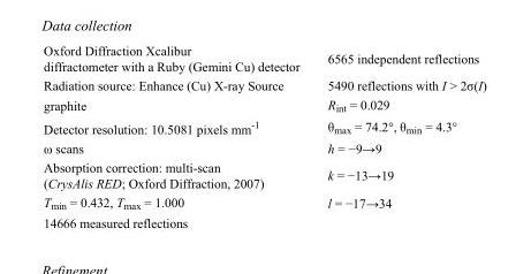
<table><tbody><tr><td>Oxford Diffraction Xcalibur diffractometer with a Ruby (Gemini Cu) detector</td><td>6565 independent reflections</td></tr><tr><td>Radiation source: Enhance (Cu) X-ray Source</td><td>5490 reflections with I &gt; 2σ(I)</td></tr><tr><td>graphite</td><td>R<sub>int</sub> = 0.029</td></tr><tr><td>Detector resolution: 10.5081 pixels mm<sup>-1</sup></td><td>θ<sub>max</sub> = 74.2°, θ<sub>min</sub> = 4.3°</td></tr><tr><td>ω scans</td><td>h = −9→9</td></tr><tr><td>Absorption correction: multi-scan (CrysAlis RED; Oxford Diffraction, 2007)</td><td>k = −13→19</td></tr><tr><td>T<sub>min</sub> = 0.432, T<sub>max</sub> = 1.000</td><td>l = −17→34</td></tr><tr><td>14666 measured reflections</td><td></td></tr></tbody></table>